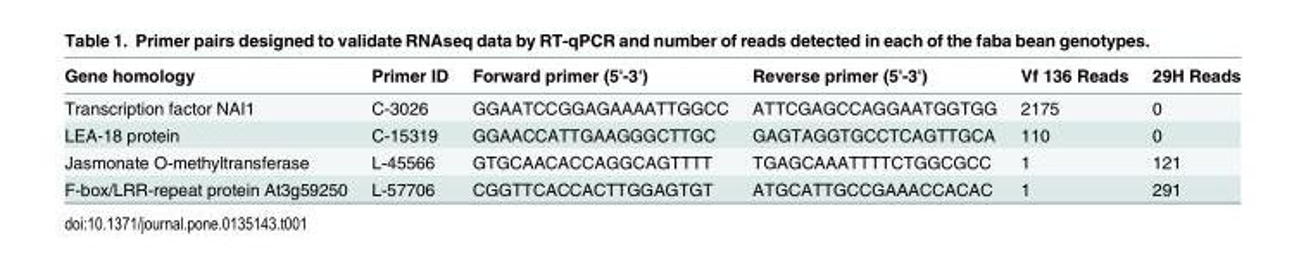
<table><thead><tr><td>Gene homology</td><td>Primer ID</td><td>Forward primer (5&#x27;-3&#x27;)</td><td>Reverse primer (5&#x27;-3&#x27;)</td><td>Vf 136 Reads</td><td>29H Reads</td></tr></thead><tbody><tr><td>Transcription factor NAI1</td><td>C-3026</td><td>GGAATCCGGAGAAAATTGGCC</td><td>ATTCGAGCCAGGAATGGTGG</td><td>2175</td><td>0</td></tr><tr><td>LEA-18 protein</td><td>C-15319</td><td>GGAACCATTGAAGGGCTTGC</td><td>GAGTAGGTGCCTCAGTTGCA</td><td>110</td><td>0</td></tr><tr><td>Jasmonate O-methyltransferase</td><td>L-45566</td><td>GTGCAACACCAGGCAGTTTT</td><td>TGAGCAAATTTTCTGGCGCC</td><td>1</td><td>121</td></tr><tr><td>F-box/LRR-repeat protein At3g59250</td><td>L-57706</td><td>CGGTTCACCACTTGGAGTGT</td><td>ATGCATTGCCGAAACCACAC</td><td>1</td><td>291</td></tr></tbody></table>